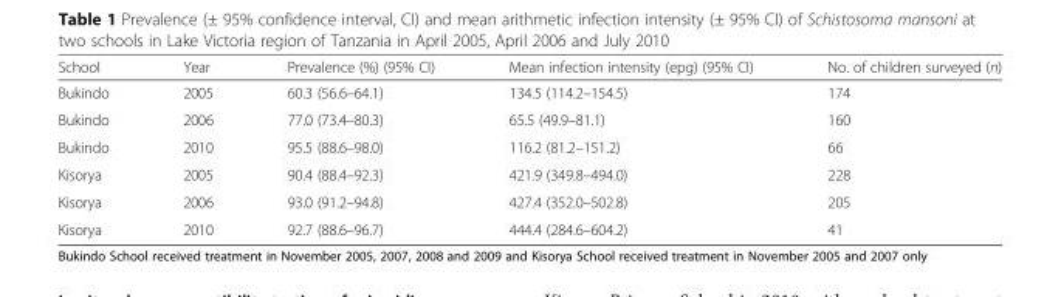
<table><thead><tr><td>School</td><td>Year</td><td>Prevalence (%) (95% CI)</td><td>Mean infection intensity (epg) (95% CI)</td><td>No. of children surveyed (n)</td></tr></thead><tbody><tr><td>Bukindo</td><td>2005</td><td>60.3 (56.6–64.1)</td><td>134.5 (114.2–154.5)</td><td>174</td></tr><tr><td>Bukindo</td><td>2006</td><td>77.0 (73.4–80.3)</td><td>65.5 (49.9–81.1)</td><td>160</td></tr><tr><td>Bukindo</td><td>2010</td><td>95.5 (88.6–98.0)</td><td>116.2 (81.2–151.2)</td><td>66</td></tr><tr><td>Kisorya</td><td>2005</td><td>90.4 (88.4–92.3)</td><td>421.9 (349.8–494.0)</td><td>228</td></tr><tr><td>Kisorya</td><td>2006</td><td>93.0 (91.2–94.8)</td><td>427.4 (352.0–502.8)</td><td>205</td></tr><tr><td>Kisorya</td><td>2010</td><td>92.7 (88.6–96.7)</td><td>444.4 (284.6–604.2)</td><td>41</td></tr></tbody></table>